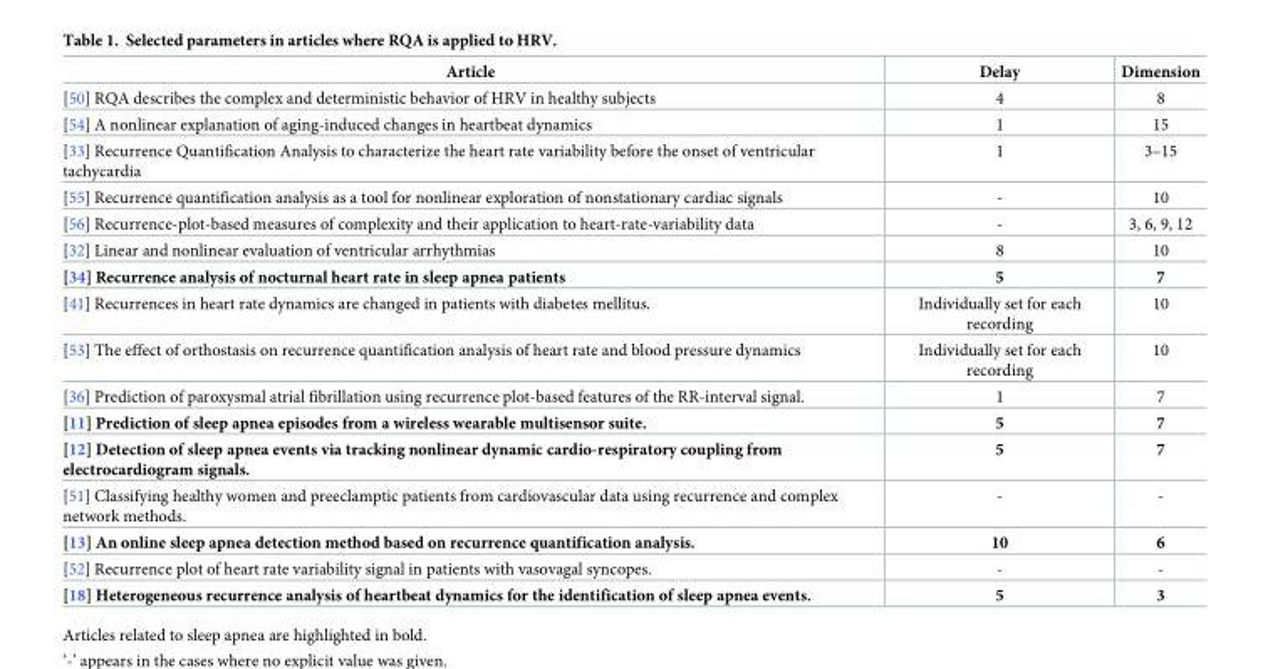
<table><thead><tr><td>Article</td><td>Delay</td><td>Dimension</td></tr></thead><tbody><tr><td>[50] RQA describes the complex and deterministic behavior of HRV in healthy subjects</td><td>4</td><td>8</td></tr><tr><td>[54] A nonlinear explanation of aging-induced changes in heartbeat dynamics</td><td>1</td><td>15</td></tr><tr><td>[33] Recurrence Quantification Analysis to characterize the heart rate variability before the onset of ventricular tachycardia</td><td>1</td><td>3–15</td></tr><tr><td>[55] Recurrence quantification analysis as a tool for nonlinear exploration of nonstationary cardiac signals</td><td>-</td><td>10</td></tr><tr><td>[56] Recurrence-plot-based measures of complexity and their application to heart-rate-variability data</td><td>-</td><td>3, 6, 9, 12</td></tr><tr><td>[32] Linear and nonlinear evaluation of ventricular arrhythmias</td><td>8</td><td>10</td></tr><tr><td>[34] Recurrence analysis of nocturnal heart rate in sleep apnea patients</td><td>5</td><td>7</td></tr><tr><td>[41] Recurrences in heart rate dynamics are changed in patients with diabetes mellitus.</td><td>Individually set for each recording</td><td>10</td></tr><tr><td>[53] The effect of orthostasis on recurrence quantification analysis of heart rate and blood pressure dynamics</td><td>Individually set for each recording</td><td>10</td></tr><tr><td>[36] Prediction of paroxysmal atrial fibrillation using recurrence plot-based features of the RR-interval signal.</td><td>1</td><td>7</td></tr><tr><td>[11] Prediction of sleep apnea episodes from a wireless wearable multisensor suite.</td><td>5</td><td>7</td></tr><tr><td>[12] Detection of sleep apnea events via tracking nonlinear dynamic cardio-respiratory coupling from electrocardiogram signals.</td><td>5</td><td>7</td></tr><tr><td>[51] Classifying healthy women and preeclamptic patients from cardiovascular data using recurrence and complex network methods.</td><td>-</td><td>-</td></tr><tr><td>[13] An online sleep apnea detection method based on recurrence quantification analysis.</td><td>10</td><td>6</td></tr><tr><td>[52] Recurrence plot of heart rate variability signal in patients with vasovagal syncopes.</td><td>-</td><td>-</td></tr><tr><td>[18] Heterogeneous recurrence analysis of heartbeat dynamics for the identification of sleep apnea events.</td><td>5</td><td>3</td></tr></tbody></table>